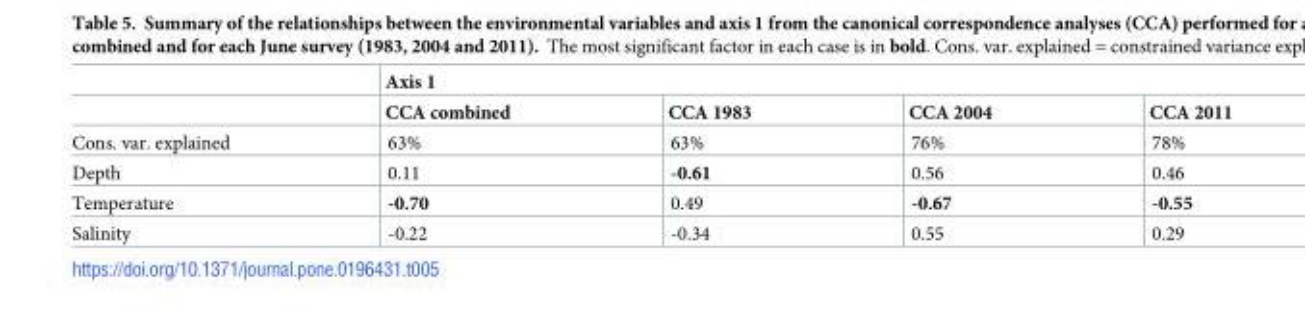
<table><thead><tr><td rowspan="2"></td><td colspan="4">Axis 1</td></tr><tr><td>CCA combined</td><td>CCA 1983</td><td>CCA 2004</td><td>CCA 2011</td></tr></thead><tbody><tr><td>Cons. var. explained</td><td>63%</td><td>63%</td><td>76%</td><td>78%</td></tr><tr><td>Depth</td><td>0.11</td><td>-0.61</td><td>0.56</td><td>0.46</td></tr><tr><td>Temperature</td><td>-0.70</td><td>0.49</td><td>-0.67</td><td>-0.55</td></tr><tr><td>Salinity</td><td>-0.22</td><td>-0.34</td><td>0.55</td><td>0.29</td></tr></tbody></table>